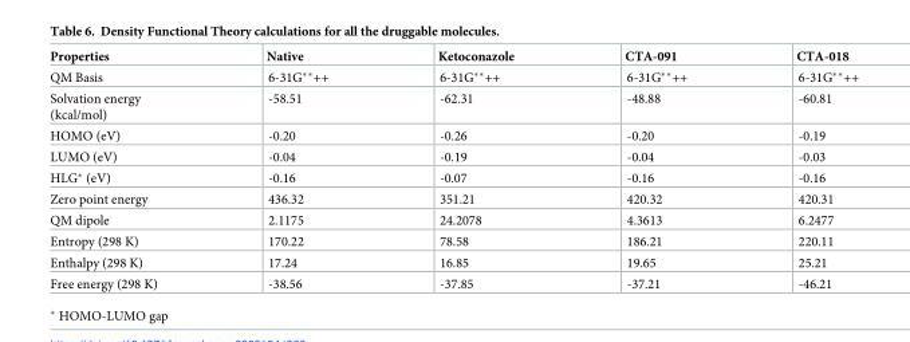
<table><thead><tr><td>Properties</td><td>Native</td><td>Ketoconazole</td><td>CTA-091</td><td>CTA-018</td></tr></thead><tbody><tr><td>QM Basis</td><td>6-31G**++</td><td>6-31G**++</td><td>6-31G**++</td><td>6-31G**++</td></tr><tr><td>Solvation energy (kcal/mol)</td><td>-58.51</td><td>-62.31</td><td>-48.88</td><td>-60.81</td></tr><tr><td>HOMO (eV)</td><td>-0.20</td><td>-0.26</td><td>-0.20</td><td>-0.19</td></tr><tr><td>LUMO (eV)</td><td>-0.04</td><td>-0.19</td><td>-0.04</td><td>-0.03</td></tr><tr><td>HLG* (eV)</td><td>-0.16</td><td>-0.07</td><td>-0.16</td><td>-0.16</td></tr><tr><td>Zero point energy</td><td>436.32</td><td>351.21</td><td>420.32</td><td>420.31</td></tr><tr><td>QM dipole</td><td>2.1175</td><td>24.2078</td><td>4.3613</td><td>6.2477</td></tr><tr><td>Entropy (298 K)</td><td>170.22</td><td>78.58</td><td>186.21</td><td>220.11</td></tr><tr><td>Enthalpy (298 K)</td><td>17.24</td><td>16.85</td><td>19.65</td><td>25.21</td></tr><tr><td>Free energy (298 K)</td><td>-38.56</td><td>-37.85</td><td>-37.21</td><td>-46.21</td></tr></tbody></table>